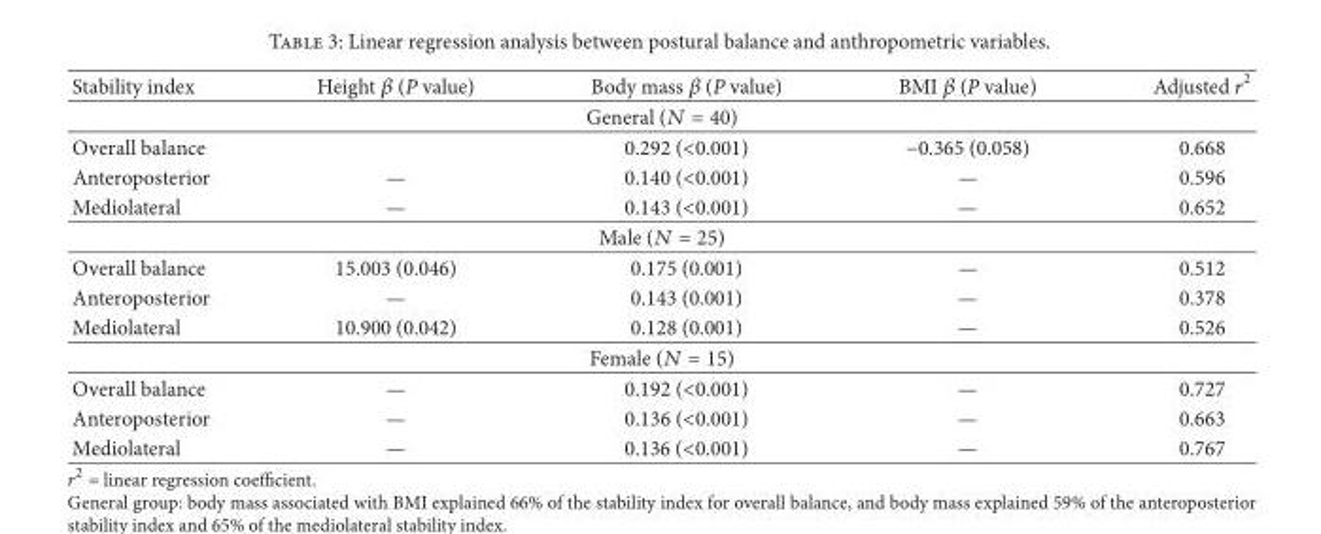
<table><thead><tr><td>Stability index</td><td>Height 𝛽𝛽 (P value)</td><td>Body mass 𝛽𝛽 (P value)</td><td>BMI 𝛽𝛽 (P value)</td><td>Adjusted 𝑟𝑟2</td></tr></thead><tbody><tr><td colspan="5">General (𝑁𝑁 𝑁 𝑁𝑁)</td></tr><tr><td>Overall balance</td><td></td><td>0.292 (&lt;0.001)</td><td>−0.365 (0.058)</td><td>0.668</td></tr><tr><td>Anteroposterior</td><td>—</td><td>0.140 (&lt;0.001)</td><td>—</td><td>0.596</td></tr><tr><td>Mediolateral</td><td>—</td><td>0.143 (&lt;0.001)</td><td>—</td><td>0.652</td></tr><tr><td colspan="5">Male (𝑁𝑁 𝑁 2𝑁)</td></tr><tr><td>Overall balance</td><td>15.003 (0.046)</td><td>0.175 (0.001)</td><td>—</td><td>0.512</td></tr><tr><td>Anteroposterior</td><td>—</td><td>0.143 (0.001)</td><td>—</td><td>0.378</td></tr><tr><td>Mediolateral</td><td>10.900 (0.042)</td><td>0.128 (0.001)</td><td>—</td><td>0.526</td></tr><tr><td colspan="5">Female (𝑁𝑁 𝑁 𝑁𝑁)</td></tr><tr><td>Overall balance</td><td>—</td><td>0.192 (&lt;0.001)</td><td>—</td><td>0.727</td></tr><tr><td>Anteroposterior</td><td>—</td><td>0.136 (&lt;0.001)</td><td>—</td><td>0.663</td></tr><tr><td>Mediolateral</td><td>—</td><td>0.136 (&lt;0.001)</td><td>—</td><td>0.767</td></tr></tbody></table>